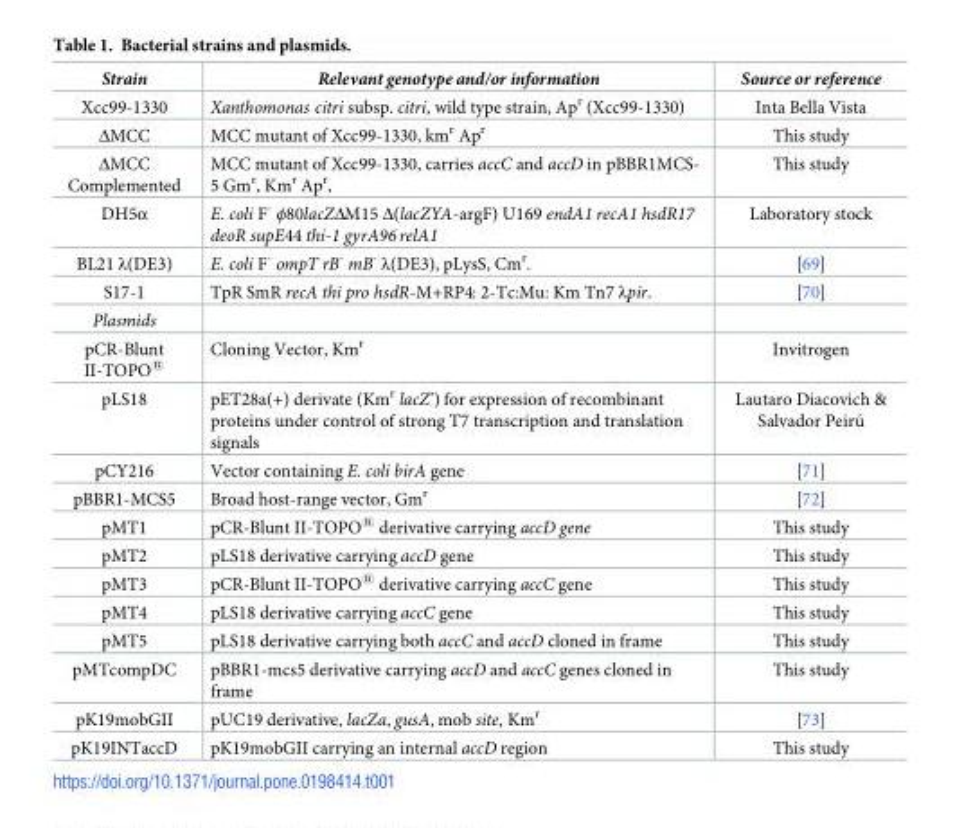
<table><thead><tr><td>Strain</td><td>Relevant genotype and/or information</td><td>Source or reference</td></tr></thead><tbody><tr><td>Xcc99-1330</td><td>Xanthomonas citri subsp. citri, wild type strain, Ap<sup>r</sup> (Xcc99-1330)</td><td>Inta Bella Vista</td></tr><tr><td>ΔMCC</td><td>MCC mutant of Xcc99-1330, km<sup>r</sup> Ap<sup>r</sup></td><td>This study</td></tr><tr><td>ΔMCC Complemented</td><td>MCC mutant of Xcc99-1330, carries accC and accD in pBBR1MCS- 5 Gm<sup>r</sup>, Km<sup>r</sup> Ap<sup>r</sup>,</td><td>This study</td></tr><tr><td>DH5α</td><td>E. coli F<sup>-</sup> ϕ80lacZΔM15 Δ(lacZYA-argF) U169 endA1 recA1 hsdR17 deoR supE44 thi-1 gyrA96 relA1</td><td>Laboratory stock</td></tr><tr><td>BL21 λ(DE3)</td><td>E. coli F<sup>-</sup> ompT rB<sup>-</sup> mB<sup>-</sup> λ(DE3), pLysS, Cm<sup>r</sup>.</td><td>[69]</td></tr><tr><td>S17-1</td><td>TpR SmR recA thi pro hsdR-M+RP4: 2-Tc:Mu: Km Tn7 λpir.</td><td>[70]</td></tr><tr><td colspan="3">Plasmids</td></tr><tr><td>pCR-Blunt II-TOPO<sup>®</sup></td><td>Cloning Vector, Km<sup>r</sup></td><td>Invitrogen</td></tr><tr><td>pLS18</td><td>pET28a(+) derivate (Km<sup>r</sup> lacZ’) for expression of recombinant proteins under control of strong T7 transcription and translation signals</td><td>Lautaro Diacovich &amp; Salvador Peiru´</td></tr><tr><td>pCY216</td><td>Vector containing E. coli birA gene</td><td>[71]</td></tr><tr><td>pBBR1-MCS5</td><td>Broad host-range vector, Gm<sup>r</sup></td><td>[72]</td></tr><tr><td>pMT1</td><td>pCR-Blunt II-TOPO<sup>®</sup> derivative carrying accD gene</td><td>This study</td></tr><tr><td>pMT2</td><td>pLS18 derivative carrying accD gene</td><td>This study</td></tr><tr><td>pMT3</td><td>pCR-Blunt II-TOPO<sup>®</sup> derivative carrying accC gene</td><td>This study</td></tr><tr><td>pMT4</td><td>pLS18 derivative carrying accC gene</td><td>This study</td></tr><tr><td>pMT5</td><td>pLS18 derivative carrying both accC and accD cloned in frame</td><td>This study</td></tr><tr><td>pMTcompDC</td><td>pBBR1-mcs5 derivative carrying accD and accC genes cloned in frame</td><td>This study</td></tr><tr><td>pK19mobGII</td><td>pUC19 derivative, lacZa, gusA, mob site, Km<sup>r</sup></td><td>[73]</td></tr><tr><td>pK19INTaccD</td><td>pK19mobGII carrying an internal accD region</td><td>This study</td></tr></tbody></table>